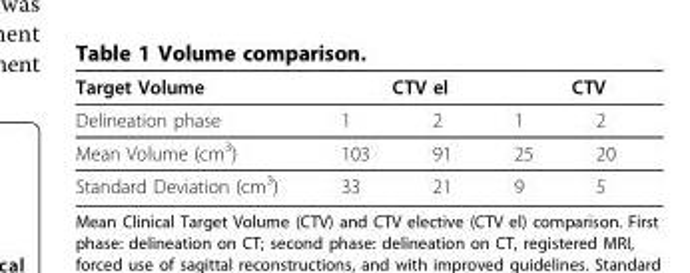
<table><thead><tr><td rowspan="2">Target Volume Delineation phase</td><td colspan="2">CTV el</td><td colspan="2">CTV</td></tr><tr><td>1</td><td>2</td><td>1</td><td>2</td></tr></thead><tbody><tr><td>Mean Volume (cm<sup>3</sup>)</td><td>103</td><td>91</td><td>25</td><td>20</td></tr><tr><td>Standard Deviation (cm<sup>3</sup>)</td><td>33</td><td>21</td><td>9</td><td>5</td></tr></tbody></table>